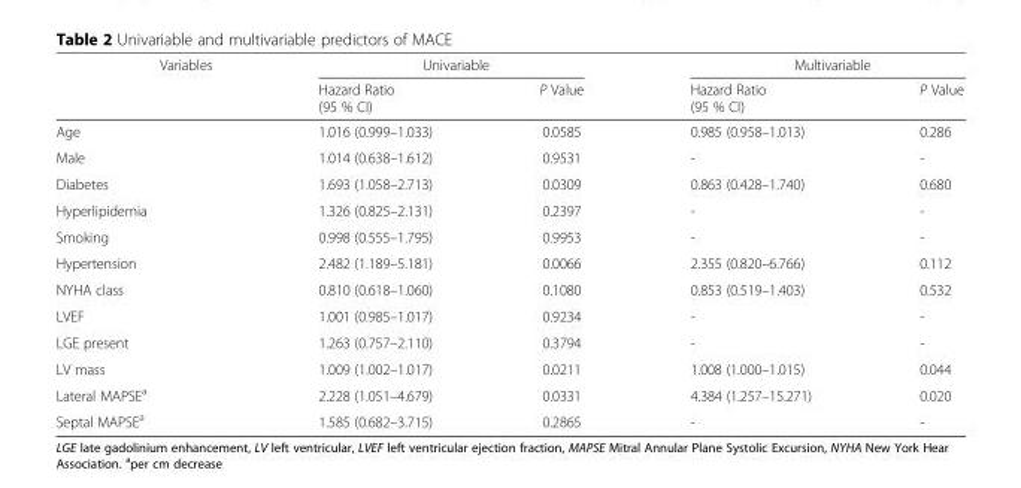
<table><thead><tr><td rowspan="2">Variables</td><td colspan="2">Univariable</td><td colspan="2">Multivariable</td></tr><tr><td>Hazard Ratio (95 % CI)</td><td>P Value</td><td>Hazard Ratio (95 % CI)</td><td>P Value</td></tr></thead><tbody><tr><td>Age</td><td>1.016 (0.999–1.033)</td><td>0.0585</td><td>0.985 (0.958–1.013)</td><td>0.286</td></tr><tr><td>Male</td><td>1.014 (0.638–1.612)</td><td>0.9531</td><td>-</td><td>-</td></tr><tr><td>Diabetes</td><td>1.693 (1.058–2.713)</td><td>0.0309</td><td>0.863 (0.428–1.740)</td><td>0.680</td></tr><tr><td>Hyperlipidemia</td><td>1.326 (0.825–2.131)</td><td>0.2397</td><td>-</td><td>-</td></tr><tr><td>Smoking</td><td>0.998 (0.555–1.795)</td><td>0.9953</td><td>-</td><td>-</td></tr><tr><td>Hypertension</td><td>2.482 (1.189–5.181)</td><td>0.0066</td><td>2.355 (0.820–6.766)</td><td>0.112</td></tr><tr><td>NYHA class</td><td>0.810 (0.618–1.060)</td><td>0.1080</td><td>0.853 (0.519–1.403)</td><td>0.532</td></tr><tr><td>LVEF</td><td>1.001 (0.985–1.017)</td><td>0.9234</td><td>-</td><td>-</td></tr><tr><td>LGE present</td><td>1.263 (0.757–2.110)</td><td>0.3794</td><td>-</td><td>-</td></tr><tr><td>LV mass</td><td>1.009 (1.002–1.017)</td><td>0.0211</td><td>1.008 (1.000–1.015)</td><td>0.044</td></tr><tr><td>Lateral MAPSE<sup>a</sup></td><td>2.228 (1.051–4.679)</td><td>0.0331</td><td>4.384 (1.257–15.271)</td><td>0.020</td></tr><tr><td>Septal MAPSE<sup>a</sup></td><td>1.585 (0.682–3.715)</td><td>0.2865</td><td>-</td><td>-</td></tr></tbody></table>